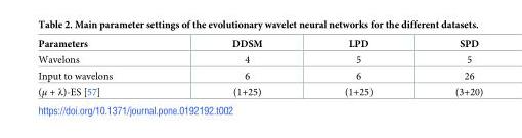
<table><thead><tr><td>Parameters</td><td>DDSM</td><td>LPD</td><td>SPD</td></tr></thead><tbody><tr><td>Wavelons</td><td>4</td><td>5</td><td>5</td></tr><tr><td>Input to wavelons</td><td>6</td><td>6</td><td>26</td></tr><tr><td>(μ + λ)-ES [57]</td><td>(1+25)</td><td>(1+25)</td><td>(3+20)</td></tr></tbody></table>